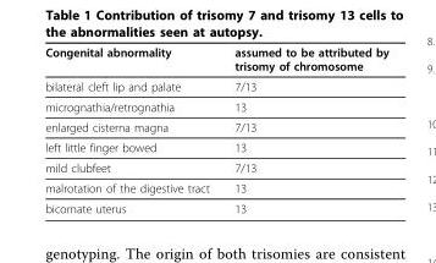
<table><thead><tr><td>Congenital abnormality</td><td>assumed to be attributed by trisomy of chromosome</td></tr></thead><tbody><tr><td>bilateral cleft lip and palate</td><td>7/13</td></tr><tr><td>micrognathia/retrognathia</td><td>13</td></tr><tr><td>enlarged cisterna magna</td><td>7/13</td></tr><tr><td>left little finger bowed</td><td>13</td></tr><tr><td>mild clubfeet</td><td>7/13</td></tr><tr><td>malrotation of the digestive tract</td><td>13</td></tr><tr><td>bicornate uterus</td><td>13</td></tr></tbody></table>